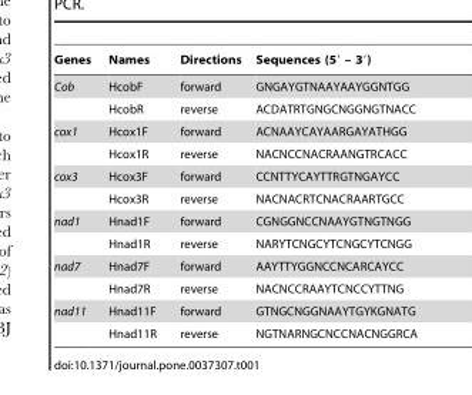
<table><thead><tr><td>Genes</td><td>Names</td><td>Directions</td><td>Sequences (5′ – 3′)</td></tr></thead><tbody><tr><td rowspan="2">Cob</td><td>HcobF</td><td>forward</td><td>GNGAYGTNAAYAAYGGNTGG</td></tr><tr><td>HcobR</td><td>reverse</td><td>ACDATRTGNGCNGGNGTNACC</td></tr><tr><td rowspan="2">cox1</td><td>Hcox1F</td><td>forward</td><td>ACNAAYCAYAARGAYATHGG</td></tr><tr><td>Hcox1R</td><td>reverse</td><td>NACNCCNACRAANGTRCACC</td></tr><tr><td rowspan="2">cox3</td><td>Hcox3F</td><td>forward</td><td>CCNTTYCAYTTRGTNGAYCC</td></tr><tr><td>Hcox3R</td><td>reverse</td><td>NACNACRTCNACRAARTGCC</td></tr><tr><td rowspan="2">nad1</td><td>Hnad1F</td><td>forward</td><td>CGNGGNCCNAAYGTNGTNGG</td></tr><tr><td>Hnad1R</td><td>reverse</td><td>NARYTCNGCYTCNGCYTCNGG</td></tr><tr><td rowspan="2">nad7</td><td>Hnad7F</td><td>forward</td><td>AAYTTYGGNCCNCARCAYCC</td></tr><tr><td>Hnad7R</td><td>reverse</td><td>NACNCCRAAYTCNCCYTTNG</td></tr><tr><td rowspan="2">nad11</td><td>Hnad11F</td><td>forward</td><td>GTNGCNGGNAAYTGYKGNATG</td></tr><tr><td>Hnad11R</td><td>reverse</td><td>NGTNARNGCNCCNACNGGRCA</td></tr></tbody></table>